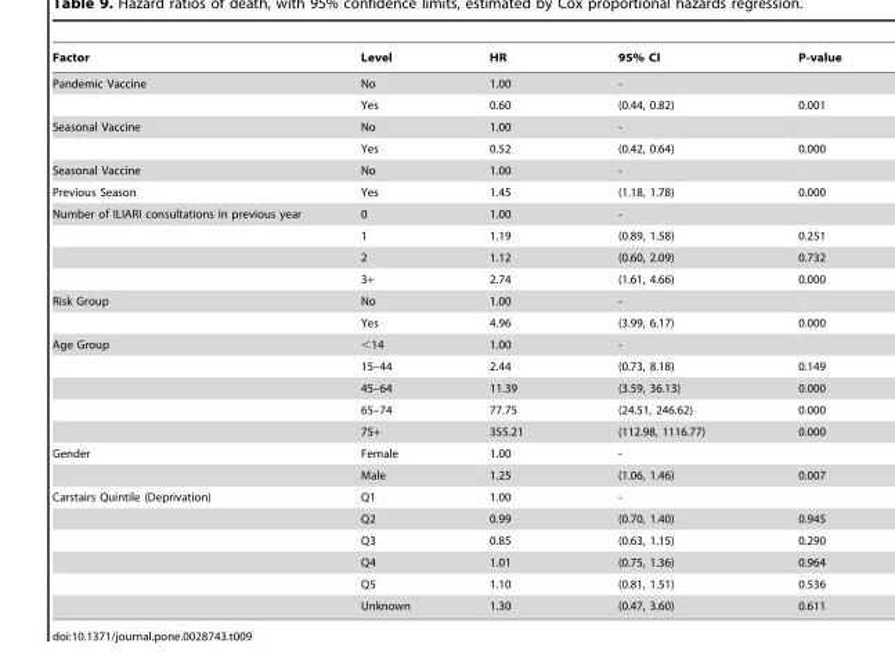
<table><thead><tr><td>Factor</td><td>Level</td><td>HR</td><td>95% CI</td><td>P-value</td></tr></thead><tbody><tr><td rowspan="2">Pandemic Vaccine</td><td>No</td><td>1.00</td><td>-</td><td></td></tr><tr><td>Yes</td><td>0.60</td><td>(0.44, 0.82)</td><td>0.001</td></tr><tr><td rowspan="2">Seasonal Vaccine</td><td>No</td><td>1.00</td><td>-</td><td></td></tr><tr><td>Yes</td><td>0.52</td><td>(0.42, 0.64)</td><td>0.000</td></tr><tr><td>Seasonal Vaccine</td><td>No</td><td>1.00</td><td>-</td><td></td></tr><tr><td>Previous Season</td><td>Yes</td><td>1.45</td><td>(1.18, 1.78)</td><td>0.000</td></tr><tr><td rowspan="4">Number of ILIARI consultations in previous year</td><td>0</td><td>1.00</td><td>-</td><td></td></tr><tr><td>1</td><td>1.19</td><td>(0.89, 1.58)</td><td>0.251</td></tr><tr><td>2</td><td>1.12</td><td>(0.60, 2.09)</td><td>0.732</td></tr><tr><td>3+</td><td>2.74</td><td>(1.61, 4.66)</td><td>0.000</td></tr><tr><td rowspan="2">Risk Group</td><td>No</td><td>1.00</td><td>-</td><td></td></tr><tr><td>Yes</td><td>4.96</td><td>(3.99, 6.17)</td><td>0.000</td></tr><tr><td rowspan="5">Age Group</td><td>&lt;14</td><td>1.00</td><td>-</td><td></td></tr><tr><td>15–44</td><td>2.44</td><td>(0.73, 8.18)</td><td>0.149</td></tr><tr><td>45–64</td><td>11.39</td><td>(3.59, 36.13)</td><td>0.000</td></tr><tr><td>65–74</td><td>77.75</td><td>(24.51, 246.62)</td><td>0.000</td></tr><tr><td>75+</td><td>355.21</td><td>(112.98, 1116.77)</td><td>0.000</td></tr><tr><td rowspan="2">Gender</td><td>Female</td><td>1.00</td><td>-</td><td></td></tr><tr><td>Male</td><td>1.25</td><td>(1.06, 1.46)</td><td>0.007</td></tr><tr><td rowspan="6">Carstairs Quintile (Deprivation)</td><td>Q1</td><td>1.00</td><td>-</td><td></td></tr><tr><td>Q2</td><td>0.99</td><td>(0.70, 1.40)</td><td>0.945</td></tr><tr><td>Q3</td><td>0.85</td><td>(0.63, 1.15)</td><td>0.290</td></tr><tr><td>Q4</td><td>1.01</td><td>(0.75, 1.36)</td><td>0.964</td></tr><tr><td>Q5</td><td>1.10</td><td>(0.81, 1.51)</td><td>0.536</td></tr><tr><td>Unknown</td><td>1.30</td><td>(0.47, 3.60)</td><td>0.611</td></tr></tbody></table>